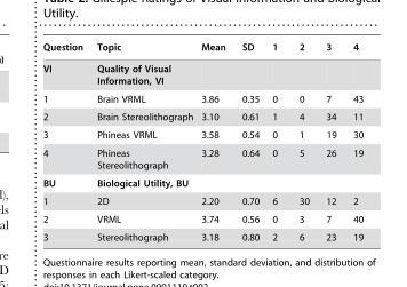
<table><thead><tr><td>Question</td><td>Topic</td><td>Mean</td><td>SD</td><td>1</td><td>2</td><td>3</td><td>4</td></tr></thead><tbody><tr><td>VI</td><td>Quality of Visual Information, VI</td><td></td><td></td><td></td><td></td><td></td><td></td></tr><tr><td>1</td><td>Brain VRML</td><td>3.86</td><td>0.35</td><td>0</td><td>0</td><td>7</td><td>43</td></tr><tr><td>2</td><td>Brain Stereolithograph</td><td>3.10</td><td>0.61</td><td>1</td><td>4</td><td>34</td><td>11</td></tr><tr><td>3</td><td>Phineas VRML</td><td>3.58</td><td>0.54</td><td>0</td><td>1</td><td>19</td><td>30</td></tr><tr><td>4</td><td>Phineas Stereolithograph</td><td>3.28</td><td>0.64</td><td>0</td><td>5</td><td>26</td><td>19</td></tr><tr><td>BU</td><td>Biological Utility, BU</td><td></td><td></td><td></td><td></td><td></td><td></td></tr><tr><td>1</td><td>2D</td><td>2.20</td><td>0.70</td><td>6</td><td>30</td><td>12</td><td>2</td></tr><tr><td>2</td><td>VRML</td><td>3.74</td><td>0.56</td><td>0</td><td>3</td><td>7</td><td>40</td></tr><tr><td>3</td><td>Stereolithograph</td><td>3.18</td><td>0.80</td><td>2</td><td>6</td><td>23</td><td>19</td></tr></tbody></table>